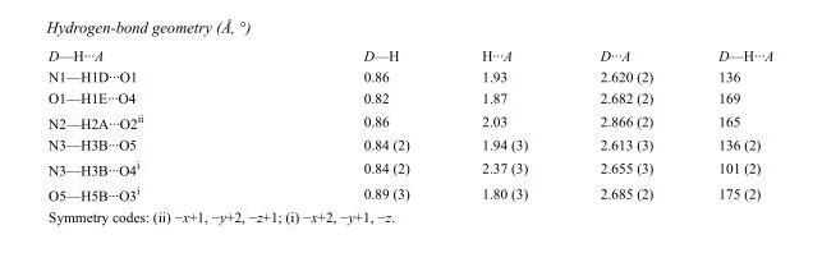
<table><tbody><tr><td>D—H···A</td><td>D—H</td><td>H···A</td><td>D···A</td><td>D—H···A</td></tr><tr><td>N1—H1D···O1</td><td>0.86</td><td>1.93</td><td>2.620 (2)</td><td>136</td></tr><tr><td>O1—H1E···O4</td><td>0.82</td><td>1.87</td><td>2.682 (2)</td><td>169</td></tr><tr><td>N2—H2A···O2<sup>ii</sup></td><td>0.86</td><td>2.03</td><td>2.866 (2)</td><td>165</td></tr><tr><td>N3—H3B···O5</td><td>0.84 (2)</td><td>1.94 (3)</td><td>2.613 (3)</td><td>136 (2)</td></tr><tr><td>N3—H3B···O4<sup>i</sup></td><td>0.84 (2)</td><td>2.37 (3)</td><td>2.655 (3)</td><td>101 (2)</td></tr><tr><td>O5—H5B···O3<sup>i</sup></td><td>0.89 (3)</td><td>1.80 (3)</td><td>2.685 (2)</td><td>175 (2)</td></tr></tbody></table>